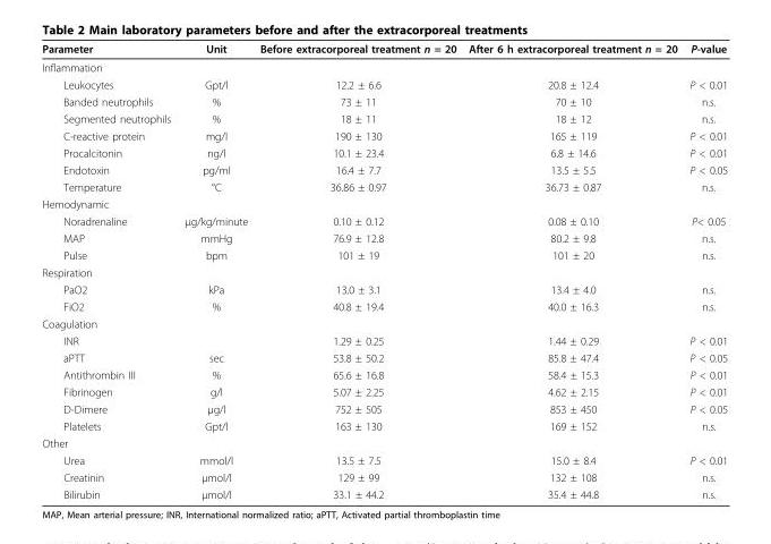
<table><thead><tr><td>Parameter</td><td>Unit</td><td>Before extracorporeal treatment n = 20</td><td>After 6 h extracorporeal treatment n = 20</td><td>P-value</td></tr></thead><tbody><tr><td colspan="5">Inflammation</td></tr><tr><td>Leukocytes</td><td>Gpt/l</td><td>12.2 ± 6.6</td><td>20.8 ± 12.4</td><td>P &lt; 0.01</td></tr><tr><td>Banded neutrophils</td><td>%</td><td>73 ± 11</td><td>70 ± 10</td><td>n.s.</td></tr><tr><td>Segmented neutrophils</td><td>%</td><td>18 ± 11</td><td>18 ± 12</td><td>n.s.</td></tr><tr><td>C-reactive protein</td><td>mg/l</td><td>190 ± 130</td><td>165 ± 119</td><td>P &lt; 0.01</td></tr><tr><td>Procalcitonin</td><td>ng/l</td><td>10.1 ± 23.4</td><td>6.8 ± 14.6</td><td>P &lt; 0.01</td></tr><tr><td>Endotoxin</td><td>pg/ml</td><td>16.4 ± 7.7</td><td>13.5 ± 5.5</td><td>P &lt; 0.05</td></tr><tr><td>Temperature</td><td>°C</td><td>36.86 ± 0.97</td><td>36.73 ± 0.87</td><td>n.s.</td></tr><tr><td colspan="5">Hemodynamic</td></tr><tr><td>Noradrenaline</td><td>μg/kg/minute</td><td>0.10 ± 0.12</td><td>0.08 ± 0.10</td><td>P&lt; 0.05</td></tr><tr><td>MAP</td><td>mmHg</td><td>76.9 ± 12.8</td><td>80.2 ± 9.8</td><td>n.s.</td></tr><tr><td>Pulse</td><td>bpm</td><td>101 ± 19</td><td>101 ± 20</td><td>n.s.</td></tr><tr><td colspan="5">Respiration</td></tr><tr><td>PaO2</td><td>kPa</td><td>13.0 ± 3.1</td><td>13.4 ± 4.0</td><td>n.s.</td></tr><tr><td>FiO2</td><td>%</td><td>40.8 ± 19.4</td><td>40.0 ± 16.3</td><td>n.s.</td></tr><tr><td colspan="5">Coagulation</td></tr><tr><td>INR</td><td></td><td>1.29 ± 0.25</td><td>1.44 ± 0.29</td><td>P &lt; 0.01</td></tr><tr><td>aPTT</td><td>sec</td><td>53.8 ± 50.2</td><td>85.8 ± 47.4</td><td>P &lt; 0.05</td></tr><tr><td>Antithrombin III</td><td>%</td><td>65.6 ± 16.8</td><td>58.4 ± 15.3</td><td>P &lt; 0.01</td></tr><tr><td>Fibrinogen</td><td>g/l</td><td>5.07 ± 2.25</td><td>4.62 ± 2.15</td><td>P &lt; 0.01</td></tr><tr><td>D-Dimere</td><td>μg/l</td><td>752 ± 505</td><td>853 ± 450</td><td>P &lt; 0.05</td></tr><tr><td>Platelets</td><td>Gpt/l</td><td>163 ± 130</td><td>169 ± 152</td><td>n.s.</td></tr><tr><td colspan="5">Other</td></tr><tr><td>Urea</td><td>mmol/l</td><td>13.5 ± 7.5</td><td>15.0 ± 8.4</td><td>P &lt; 0.01</td></tr><tr><td>Creatinin</td><td>μmol/l</td><td>129 ± 99</td><td>132 ± 108</td><td>n.s.</td></tr><tr><td>Bilirubin</td><td>μmol/l</td><td>33.1 ± 44.2</td><td>35.4 ± 44.8</td><td>n.s.</td></tr></tbody></table>